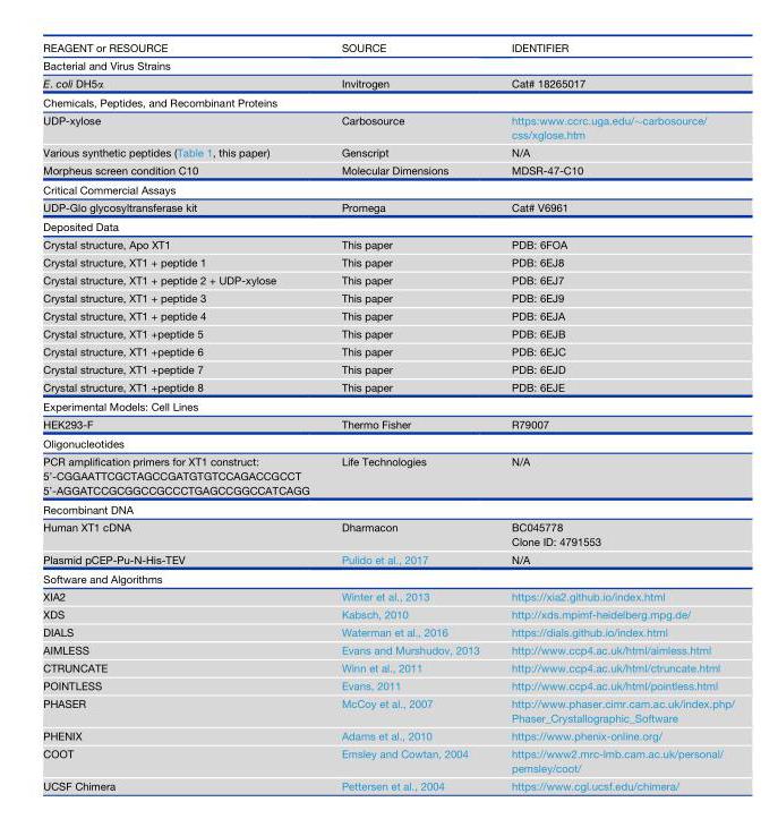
<table><thead><tr><td>REAGENT or RESOURCE</td><td>SOURCE</td><td>IDENTIFIER</td></tr></thead><tbody><tr><td colspan="3">Bacterial and Virus Strains</td></tr><tr><td>E. coli DH5α</td><td>Invitrogen</td><td>Cat# 18265017</td></tr><tr><td colspan="3">Chemicals, Peptides, and Recombinant Proteins</td></tr><tr><td>UDP-xylose</td><td>Carbosource</td><td>https:www.ccrc.uga.edu/∼carbosource/ css/xglose.htm</td></tr><tr><td>Various synthetic peptides (Table 1, this paper)</td><td>Genscript</td><td>N/A</td></tr><tr><td>Morpheus screen condition C10</td><td>Molecular Dimensions</td><td>MDSR-47-C10</td></tr><tr><td colspan="3">Critical Commercial Assays</td></tr><tr><td>UDP-Glo glycosyltransferase kit</td><td>Promega</td><td>Cat# V6961</td></tr><tr><td colspan="3">Deposited Data</td></tr><tr><td>Crystal structure, Apo XT1</td><td>This paper</td><td>PDB: 6FOA</td></tr><tr><td>Crystal structure, XT1 + peptide 1</td><td>This paper</td><td>PDB: 6EJ8</td></tr><tr><td>Crystal structure, XT1 + peptide 2 + UDP-xylose</td><td>This paper</td><td>PDB: 6EJ7</td></tr><tr><td>Crystal structure, XT1 + peptide 3</td><td>This paper</td><td>PDB: 6EJ9</td></tr><tr><td>Crystal structure, XT1 + peptide 4</td><td>This paper</td><td>PDB: 6EJA</td></tr><tr><td>Crystal structure, XT1 +peptide 5</td><td>This paper</td><td>PDB: 6EJB</td></tr><tr><td>Crystal structure, XT1 +peptide 6</td><td>This paper</td><td>PDB: 6EJC</td></tr><tr><td>Crystal structure, XT1 +peptide 7</td><td>This paper</td><td>PDB: 6EJD</td></tr><tr><td>Crystal structure, XT1 +peptide 8</td><td>This paper</td><td>PDB: 6EJE</td></tr><tr><td colspan="3">Experimental Models: Cell Lines</td></tr><tr><td>HEK293-F</td><td>Thermo Fisher</td><td>R79007</td></tr><tr><td colspan="3">Oligonucleotides</td></tr><tr><td>PCR amplification primers for XT1 construct: 5’-CGGAATTCGCTAGCCGATGTGTCCAGACCGCCT 5’-AGGATCCGCGGCCGCCCTGAGCCGGCCATCAGG</td><td>Life Technologies</td><td>N/A</td></tr><tr><td colspan="3">Recombinant DNA</td></tr><tr><td>Human XT1 cDNA</td><td>Dharmacon</td><td>BC045778 Clone ID: 4791553</td></tr><tr><td>Plasmid pCEP-Pu-N-His-TEV</td><td>Pulido et al., 2017</td><td>N/A</td></tr><tr><td colspan="3">Software and Algorithms</td></tr><tr><td>XIA2</td><td>Winter et al., 2013</td><td>https://xia2.github.io/index.html</td></tr><tr><td>XDS</td><td>Kabsch, 2010</td><td>http://xds.mpimf-heidelberg.mpg.de/</td></tr><tr><td>DIALS</td><td>Waterman et al., 2016</td><td>https://dials.github.io/index.html</td></tr><tr><td>AIMLESS</td><td>Evans and Murshudov, 2013</td><td>http://www.ccp4.ac.uk/html/aimless.html</td></tr><tr><td>CTRUNCATE</td><td>Winn et al., 2011</td><td>http://www.ccp4.ac.uk/html/ctruncate.html</td></tr><tr><td>POINTLESS</td><td>Evans, 2011</td><td>http://www.ccp4.ac.uk/html/pointless.html</td></tr><tr><td>PHASER</td><td>McCoy et al., 2007</td><td>http://www.phaser.cimr.cam.ac.uk/index.php/ Phaser_Crystallographic_Software</td></tr><tr><td>PHENIX</td><td>Adams et al., 2010</td><td>https://www.phenix-online.org/</td></tr><tr><td>COOT</td><td>Emsley and Cowtan, 2004</td><td>https://www2.mrc-lmb.cam.ac.uk/personal/ pemsley/coot/</td></tr><tr><td>UCSF Chimera</td><td>Pettersen et al., 2004</td><td>https://www.cgl.ucsf.edu/chimera/</td></tr></tbody></table>